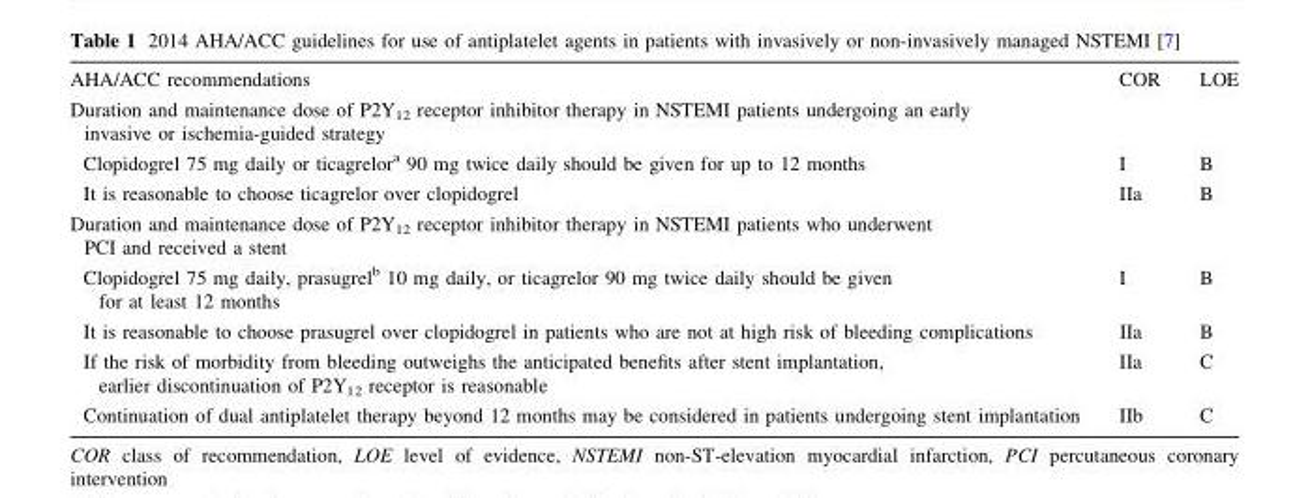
<table><tbody><tr><td>AHA/ACC recommendations</td><td>COR</td><td>LOE</td></tr><tr><td colspan="3">Duration and maintenance dose of P2Y<sub>12</sub> receptor inhibitor therapy in NSTEMI patients undergoing an early invasive or ischemia-guided strategy</td></tr><tr><td>Clopidogrel 75 mg daily or ticagrelor<sup>a</sup> 90 mg twice daily should be given for up to 12 months</td><td>I</td><td>B</td></tr><tr><td>It is reasonable to choose ticagrelor over clopidogrel</td><td>IIa</td><td>B</td></tr><tr><td colspan="3">Duration and maintenance dose of P2Y<sub>12</sub> receptor inhibitor therapy in NSTEMI patients who underwent PCI and received a stent</td></tr><tr><td>Clopidogrel 75 mg daily, prasugrel<sup>b</sup> 10 mg daily, or ticagrelor 90 mg twice daily should be given for at least 12 months</td><td>I</td><td>B</td></tr><tr><td>It is reasonable to choose prasugrel over clopidogrel in patients who are not at high risk of bleeding complications</td><td>IIa</td><td>B</td></tr><tr><td>If the risk of morbidity from bleeding outweighs the anticipated benefits after stent implantation, earlier discontinuation of P2Y<sub>12</sub> receptor is reasonable</td><td>IIa</td><td>C</td></tr><tr><td>Continuation of dual antiplatelet therapy beyond 12 months may be considered in patients undergoing stent implantation</td><td>IIb</td><td>C</td></tr></tbody></table>